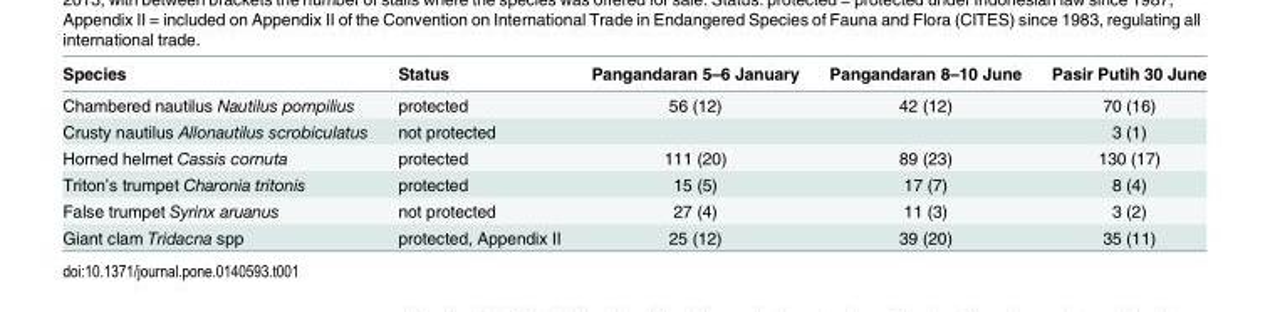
<table><thead><tr><td>Species</td><td>Status</td><td>Pangandaran 5–6 January</td><td>Pangandaran 8–10 June</td><td>Pasir Putih 30 June</td></tr></thead><tbody><tr><td>Chambered nautilus Nautilus pompilius</td><td>protected</td><td>56 (12)</td><td>42 (12)</td><td>70 (16)</td></tr><tr><td>Crusty nautilus Allonautilus scrobiculatus</td><td>not protected</td><td></td><td></td><td>3 (1)</td></tr><tr><td>Horned helmet Cassis cornuta</td><td>protected</td><td>111 (20)</td><td>89 (23)</td><td>130 (17)</td></tr><tr><td>Triton’s trumpet Charonia tritonis</td><td>protected</td><td>15 (5)</td><td>17 (7)</td><td>8 (4)</td></tr><tr><td>False trumpet Syrinx aruanus</td><td>not protected</td><td>27 (4)</td><td>11 (3)</td><td>3 (2)</td></tr><tr><td>Giant clam Tridacna spp</td><td>protected, Appendix II</td><td>25 (12)</td><td>39 (20)</td><td>35 (11)</td></tr></tbody></table>